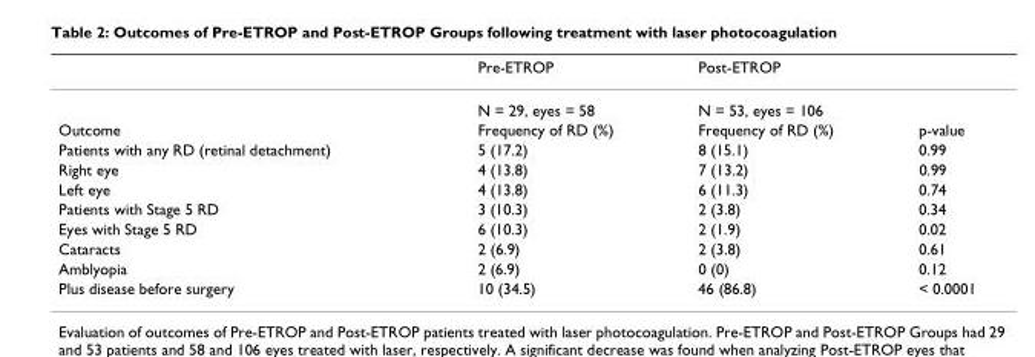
<table><thead><tr><td></td><td>Pre-ETROP</td><td>Post-ETROP</td><td></td></tr></thead><tbody><tr><td></td><td>N = 29, eyes = 58</td><td>N = 53, eyes = 106</td><td></td></tr><tr><td>Outcome</td><td>Frequency of RD (%)</td><td>Frequency of RD (%)</td><td>p-value</td></tr><tr><td>Patients with any RD (retinal detachment)</td><td>5 (17.2)</td><td>8 (15.1)</td><td>0.99</td></tr><tr><td>Right eye</td><td>4 (13.8)</td><td>7 (13.2)</td><td>0.99</td></tr><tr><td>Left eye</td><td>4 (13.8)</td><td>6 (11.3)</td><td>0.74</td></tr><tr><td>Patients with Stage 5 RD</td><td>3 (10.3)</td><td>2 (3.8)</td><td>0.34</td></tr><tr><td>Eyes with Stage 5 RD</td><td>6 (10.3)</td><td>2 (1.9)</td><td>0.02</td></tr><tr><td>Cataracts</td><td>2 (6.9)</td><td>2 (3.8)</td><td>0.61</td></tr><tr><td>Amblyopia</td><td>2 (6.9)</td><td>0 (0)</td><td>0.12</td></tr><tr><td>Plus disease before surgery</td><td>10 (34.5)</td><td>46 (86.8)</td><td>&lt; 0.0001</td></tr></tbody></table>